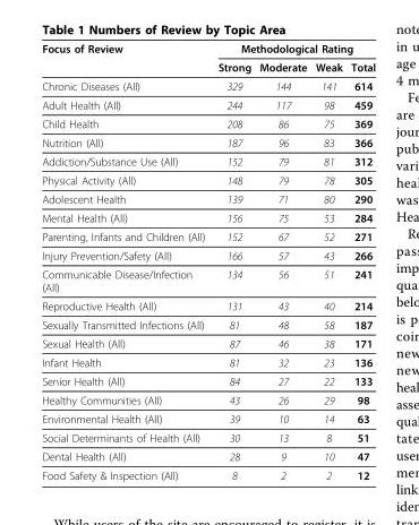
<table><thead><tr><td rowspan="2">Focus of Review</td><td colspan="4">Methodological Rating</td></tr><tr><td>Strong</td><td>Moderate</td><td>Weak</td><td>Total</td></tr></thead><tbody><tr><td>Chronic Diseases (All)</td><td>329</td><td>144</td><td>141</td><td>614</td></tr><tr><td>Adult Health (All)</td><td>244</td><td>117</td><td>98</td><td>459</td></tr><tr><td>Child Health</td><td>208</td><td>86</td><td>75</td><td>369</td></tr><tr><td>Nutrition (All)</td><td>187</td><td>96</td><td>83</td><td>366</td></tr><tr><td>Addiction/Substance Use (All)</td><td>152</td><td>79</td><td>81</td><td>312</td></tr><tr><td>Physical Activity (All)</td><td>148</td><td>79</td><td>78</td><td>305</td></tr><tr><td>Adolescent Health</td><td>139</td><td>71</td><td>80</td><td>290</td></tr><tr><td>Mental Health (All)</td><td>156</td><td>75</td><td>53</td><td>284</td></tr><tr><td>Parenting, Infants and Children (All)</td><td>152</td><td>67</td><td>52</td><td>271</td></tr><tr><td>Injury Prevention/Safety (All)</td><td>166</td><td>57</td><td>43</td><td>266</td></tr><tr><td>Communicable Disease/Infection (All)</td><td>134</td><td>56</td><td>51</td><td>241</td></tr><tr><td>Reproductive Health (All)</td><td>131</td><td>43</td><td>40</td><td>214</td></tr><tr><td>Sexually Transmitted Infections (All)</td><td>81</td><td>48</td><td>58</td><td>187</td></tr><tr><td>Sexual Health (All)</td><td>87</td><td>46</td><td>38</td><td>171</td></tr><tr><td>Infant Health</td><td>81</td><td>32</td><td>23</td><td>136</td></tr><tr><td>Senior Health (All)</td><td>84</td><td>27</td><td>22</td><td>133</td></tr><tr><td>Healthy Communities (All)</td><td>43</td><td>26</td><td>29</td><td>98</td></tr><tr><td>Environmental Health (All)</td><td>39</td><td>10</td><td>14</td><td>63</td></tr><tr><td>Social Determinants of Health (All)</td><td>30</td><td>13</td><td>8</td><td>51</td></tr><tr><td>Dental Health (All)</td><td>28</td><td>9</td><td>10</td><td>47</td></tr><tr><td>Food Safety &amp; Inspection (All)</td><td>8</td><td>2</td><td>2</td><td>12</td></tr></tbody></table>